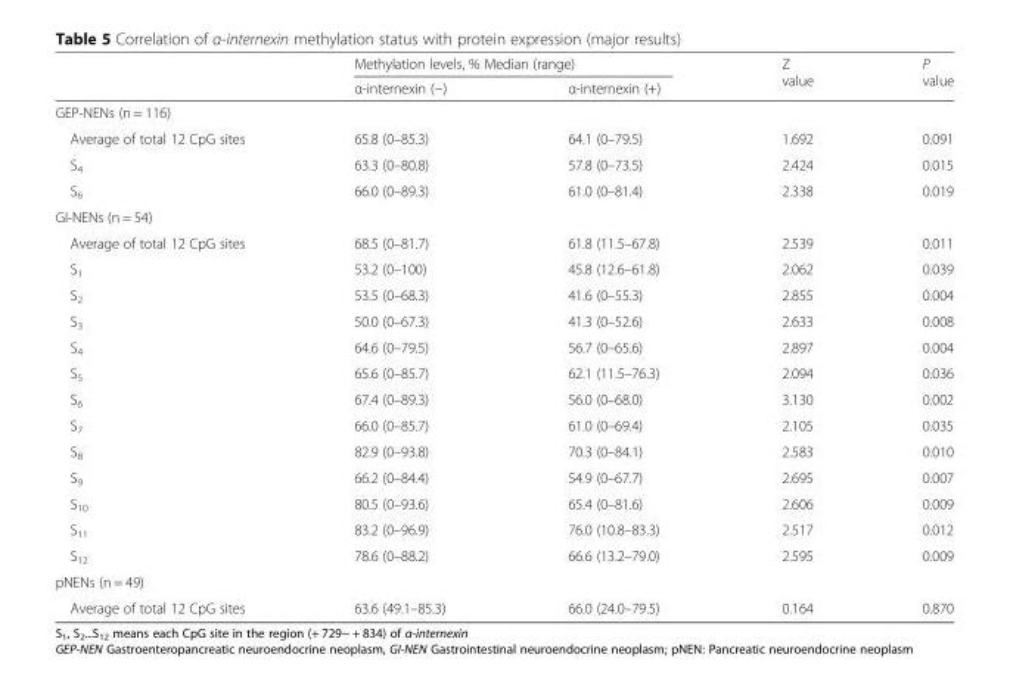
<table><thead><tr><td rowspan="2"></td><td colspan="2">Methylation levels, % Median (range)</td><td rowspan="2">Z value</td><td rowspan="2">P value</td></tr><tr><td>α-internexin (−)</td><td>α-internexin (+)</td></tr></thead><tbody><tr><td colspan="5">GEP-NENs (n = 116)</td></tr><tr><td>Average of total 12 CpG sites</td><td>65.8 (0–85.3)</td><td>64.1 (0–79.5)</td><td>1.692</td><td>0.091</td></tr><tr><td>S<sub>4</sub></td><td>63.3 (0–80.8)</td><td>57.8 (0–73.5)</td><td>2.424</td><td>0.015</td></tr><tr><td>S<sub>6</sub></td><td>66.0 (0–89.3)</td><td>61.0 (0–81.4)</td><td>2.338</td><td>0.019</td></tr><tr><td colspan="5">GI-NENs (n = 54)</td></tr><tr><td>Average of total 12 CpG sites</td><td>68.5 (0–81.7)</td><td>61.8 (11.5–67.8)</td><td>2.539</td><td>0.011</td></tr><tr><td>S<sub>1</sub></td><td>53.2 (0–100)</td><td>45.8 (12.6–61.8)</td><td>2.062</td><td>0.039</td></tr><tr><td>S<sub>2</sub></td><td>53.5 (0–68.3)</td><td>41.6 (0–55.3)</td><td>2.855</td><td>0.004</td></tr><tr><td>S<sub>3</sub></td><td>50.0 (0–67.3)</td><td>41.3 (0–52.6)</td><td>2.633</td><td>0.008</td></tr><tr><td>S<sub>4</sub></td><td>64.6 (0–79.5)</td><td>56.7 (0–65.6)</td><td>2.897</td><td>0.004</td></tr><tr><td>S<sub>5</sub></td><td>65.6 (0–85.7)</td><td>62.1 (11.5–76.3)</td><td>2.094</td><td>0.036</td></tr><tr><td>S<sub>6</sub></td><td>67.4 (0–89.3)</td><td>56.0 (0–68.0)</td><td>3.130</td><td>0.002</td></tr><tr><td>S<sub>7</sub></td><td>66.0 (0–85.7)</td><td>61.0 (0–69.4)</td><td>2.105</td><td>0.035</td></tr><tr><td>S<sub>8</sub></td><td>82.9 (0–93.8)</td><td>70.3 (0–84.1)</td><td>2.583</td><td>0.010</td></tr><tr><td>S<sub>9</sub></td><td>66.2 (0–84.4)</td><td>54.9 (0–67.7)</td><td>2.695</td><td>0.007</td></tr><tr><td>S<sub>10</sub></td><td>80.5 (0–93.6)</td><td>65.4 (0–81.6)</td><td>2.606</td><td>0.009</td></tr><tr><td>S<sub>11</sub></td><td>83.2 (0–96.9)</td><td>76.0 (10.8–83.3)</td><td>2.517</td><td>0.012</td></tr><tr><td>S<sub>12</sub></td><td>78.6 (0–88.2)</td><td>66.6 (13.2–79.0)</td><td>2.595</td><td>0.009</td></tr><tr><td colspan="5">pNENs (n = 49)</td></tr><tr><td>Average of total 12 CpG sites</td><td>63.6 (49.1–85.3)</td><td>66.0 (24.0–79.5)</td><td>0.164</td><td>0.870</td></tr></tbody></table>